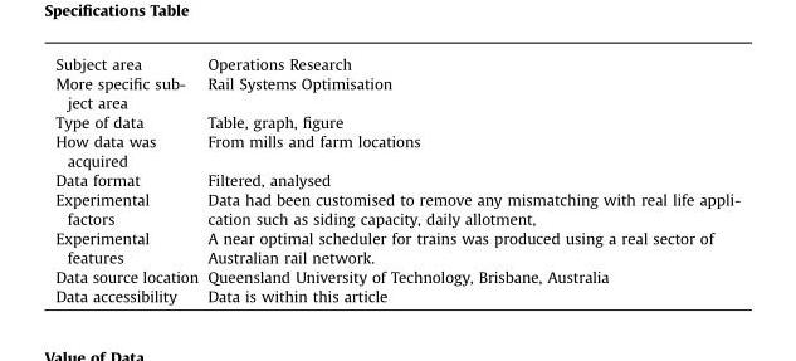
<table><tbody><tr><td>Subject area</td><td>Operations Research</td></tr><tr><td>More specific sub- ject area</td><td>Rail Systems Optimisation</td></tr><tr><td>Type of data</td><td>Table, graph, figure</td></tr><tr><td>How data was acquired</td><td>From mills and farm locations</td></tr><tr><td>Data format</td><td>Filtered, analysed</td></tr><tr><td>Experimental factors</td><td>Data had been customised to remove any mismatching with real life appli- cation such as siding capacity, daily allotment,</td></tr><tr><td>Experimental features</td><td>A near optimal scheduler for trains was produced using a real sector of Australian rail network.</td></tr><tr><td>Data source location</td><td>Queensland University of Technology, Brisbane, Australia</td></tr><tr><td>Data accessibility</td><td>Data is within this article</td></tr></tbody></table>